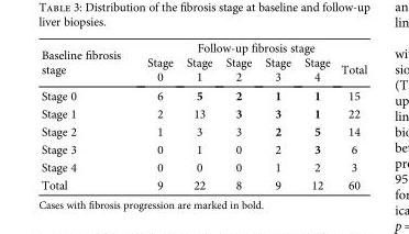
<table><thead><tr><td rowspan="2">Baseline fibrosis stage</td><td colspan="6">Follow-up fibrosis stage</td></tr><tr><td>Stage 0</td><td>Stage 1</td><td>Stage 2</td><td>Stage 3</td><td>Stage 4</td><td>Total</td></tr></thead><tbody><tr><td>Stage 0</td><td>6</td><td>5</td><td>2</td><td>1</td><td>1</td><td>15</td></tr><tr><td>Stage 1</td><td>2</td><td>13</td><td>3</td><td>3</td><td>1</td><td>22</td></tr><tr><td>Stage 2</td><td>1</td><td>3</td><td>3</td><td>2</td><td>5</td><td>14</td></tr><tr><td>Stage 3</td><td>0</td><td>1</td><td>0</td><td>2</td><td>3</td><td>6</td></tr><tr><td>Stage 4</td><td>0</td><td>0</td><td>0</td><td>1</td><td>2</td><td>3</td></tr><tr><td>Total</td><td>9</td><td>22</td><td>8</td><td>9</td><td>12</td><td>60</td></tr></tbody></table>